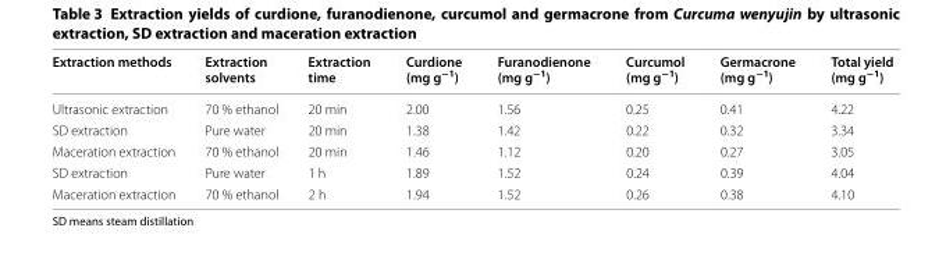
<table><thead><tr><td>Extraction methods</td><td>Extraction solvents</td><td>Extraction time</td><td>Curdione (mg g<sup>−1</sup>)</td><td>Furanodienone (mg g<sup>−1</sup>)</td><td>Curcumol (mg g<sup>−1</sup>)</td><td>Germacrone (mg g<sup>−1</sup>)</td><td>Total yield (mg g<sup>−1</sup>)</td></tr></thead><tbody><tr><td>Ultrasonic extraction</td><td>70 % ethanol</td><td>20 min</td><td>2.00</td><td>1.56</td><td>0.25</td><td>0.41</td><td>4.22</td></tr><tr><td>SD extraction</td><td>Pure water</td><td>20 min</td><td>1.38</td><td>1.42</td><td>0.22</td><td>0.32</td><td>3.34</td></tr><tr><td>Maceration extraction</td><td>70 % ethanol</td><td>20 min</td><td>1.46</td><td>1.12</td><td>0.20</td><td>0.27</td><td>3.05</td></tr><tr><td>SD extraction</td><td>Pure water</td><td>1 h</td><td>1.89</td><td>1.52</td><td>0.24</td><td>0.39</td><td>4.04</td></tr><tr><td>Maceration extraction</td><td>70 % ethanol</td><td>2 h</td><td>1.94</td><td>1.52</td><td>0.26</td><td>0.38</td><td>4.10</td></tr></tbody></table>